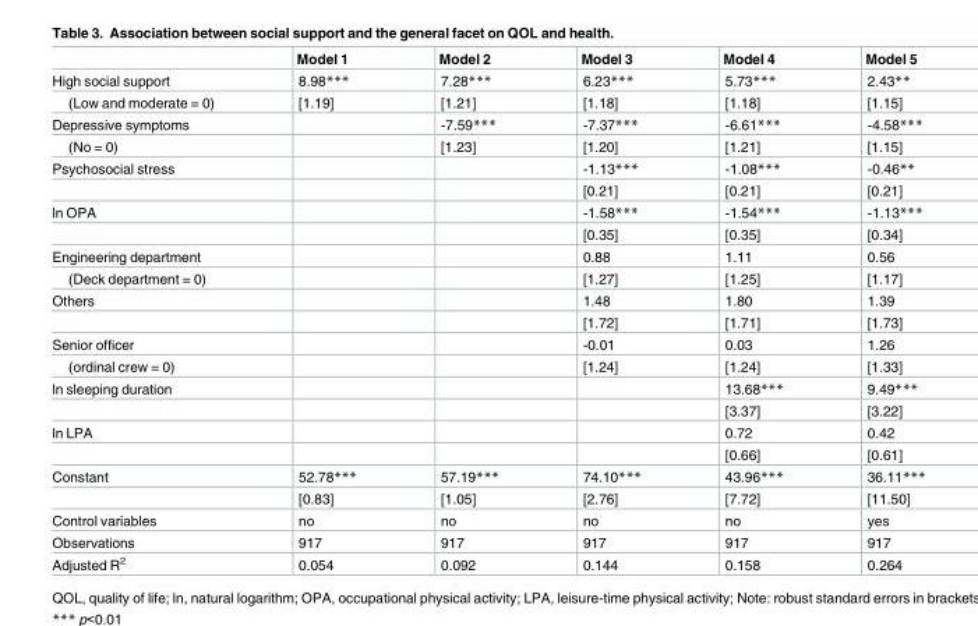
<table><thead><tr><td></td><td>Model 1</td><td>Model 2</td><td>Model 3</td><td>Model 4</td><td>Model 5</td></tr></thead><tbody><tr><td>High social support</td><td>8.98***</td><td>7.28***</td><td>6.23***</td><td>5.73***</td><td>2.43**</td></tr><tr><td>(Low and moderate = 0)</td><td>[1.19]</td><td>[1.21]</td><td>[1.18]</td><td>[1.18]</td><td>[1.15]</td></tr><tr><td>Depressive symptoms</td><td></td><td>-7.59***</td><td>-7.37***</td><td>-6.61***</td><td>-4.58***</td></tr><tr><td>(No = 0)</td><td></td><td>[1.23]</td><td>[1.20]</td><td>[1.21]</td><td>[1.15]</td></tr><tr><td rowspan="2">Psychosocial stress</td><td></td><td></td><td>-1.13***</td><td>-1.08***</td><td>-0.46**</td></tr><tr><td></td><td></td><td>[0.21]</td><td>[0.21]</td><td>[0.21]</td></tr><tr><td rowspan="2">ln OPA</td><td></td><td></td><td>-1.58***</td><td>-1.54***</td><td>-1.13***</td></tr><tr><td></td><td></td><td>[0.35]</td><td>[0.35]</td><td>[0.34]</td></tr><tr><td>Engineering department</td><td></td><td></td><td>0.88</td><td>1.11</td><td>0.56</td></tr><tr><td>(Deck department = 0)</td><td></td><td></td><td>[1.27]</td><td>[1.25]</td><td>[1.17]</td></tr><tr><td rowspan="2">Others</td><td></td><td></td><td>1.48</td><td>1.80</td><td>1.39</td></tr><tr><td></td><td></td><td>[1.72]</td><td>[1.71]</td><td>[1.73]</td></tr><tr><td>Senior officer</td><td></td><td></td><td>-0.01</td><td>0.03</td><td>1.26</td></tr><tr><td>(ordinal crew = 0)</td><td></td><td></td><td>[1.24]</td><td>[1.24]</td><td>[1.33]</td></tr><tr><td rowspan="2">ln sleeping duration</td><td></td><td></td><td></td><td>13.68***</td><td>9.49***</td></tr><tr><td></td><td></td><td></td><td>[3.37]</td><td>[3.22]</td></tr><tr><td rowspan="2">ln LPA</td><td></td><td></td><td></td><td>0.72</td><td>0.42</td></tr><tr><td></td><td></td><td></td><td>[0.66]</td><td>[0.61]</td></tr><tr><td rowspan="2">Constant</td><td>52.78***</td><td>57.19***</td><td>74.10***</td><td>43.96***</td><td>36.11***</td></tr><tr><td>[0.83]</td><td>[1.05]</td><td>[2.76]</td><td>[7.72]</td><td>[11.50]</td></tr><tr><td>Control variables</td><td>no</td><td>no</td><td>no</td><td>no</td><td>yes</td></tr><tr><td>Observations</td><td>917</td><td>917</td><td>917</td><td>917</td><td>917</td></tr><tr><td>Adjusted R<sup>2</sup></td><td>0.054</td><td>0.092</td><td>0.144</td><td>0.158</td><td>0.264</td></tr></tbody></table>